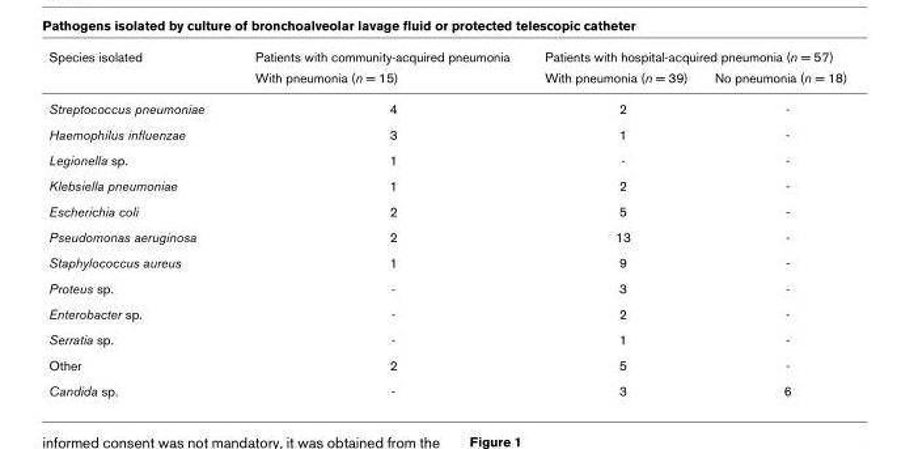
<table><thead><tr><td rowspan="2">Species isolated</td><td rowspan="2">Patients with community-acquired pneumonia With pneumonia (n = 15)</td><td colspan="2">Patients with hospital-acquired pneumonia (n = 57)</td></tr><tr><td>With pneumonia (n = 39)</td><td>No pneumonia (n = 18)</td></tr></thead><tbody><tr><td>Streptococcus pneumoniae</td><td>4</td><td>2</td><td>-</td></tr><tr><td>Haemophilus influenzae</td><td>3</td><td>1</td><td>-</td></tr><tr><td>Legionella sp.</td><td>1</td><td>-</td><td>-</td></tr><tr><td>Klebsiella pneumoniae</td><td>1</td><td>2</td><td>-</td></tr><tr><td>Escherichia coli</td><td>2</td><td>5</td><td>-</td></tr><tr><td>Pseudomonas aeruginosa</td><td>2</td><td>13</td><td>-</td></tr><tr><td>Staphylococcus aureus</td><td>1</td><td>9</td><td>-</td></tr><tr><td>Proteus sp.</td><td>-</td><td>3</td><td>-</td></tr><tr><td>Enterobacter sp.</td><td>-</td><td>2</td><td>-</td></tr><tr><td>Serratia sp.</td><td>-</td><td>1</td><td>-</td></tr><tr><td>Other</td><td>2</td><td>5</td><td>-</td></tr><tr><td>Candida sp.</td><td>-</td><td>3</td><td>6</td></tr></tbody></table>